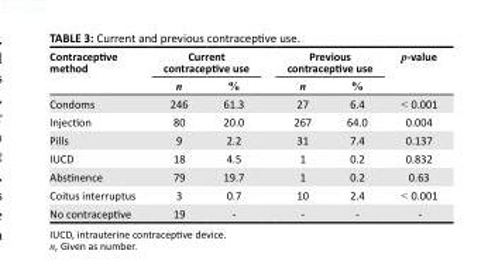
<table><thead><tr><td rowspan="2">Contraceptive method</td><td colspan="2">Current contraceptive use</td><td colspan="2">Previous contraceptive use</td><td rowspan="2">p-value</td></tr><tr><td>n</td><td>%</td><td>n</td><td>%</td></tr></thead><tbody><tr><td>Condoms</td><td>246</td><td>61.3</td><td>27</td><td>6.4</td><td>&lt; 0.001</td></tr><tr><td>Injection</td><td>80</td><td>20.0</td><td>267</td><td>64.0</td><td>0.004</td></tr><tr><td>Pills</td><td>9</td><td>2.2</td><td>31</td><td>7.4</td><td>0.137</td></tr><tr><td>IUCD</td><td>18</td><td>4.5</td><td>1</td><td>0.2</td><td>0.832</td></tr><tr><td>Abstinence</td><td>79</td><td>19.7</td><td>1</td><td>0.2</td><td>0.63</td></tr><tr><td>Coitus interruptus</td><td>3</td><td>0.7</td><td>10</td><td>2.4</td><td>&lt; 0.001</td></tr><tr><td>No contraceptive</td><td>19</td><td>-</td><td>-</td><td>-</td><td>-</td></tr></tbody></table>